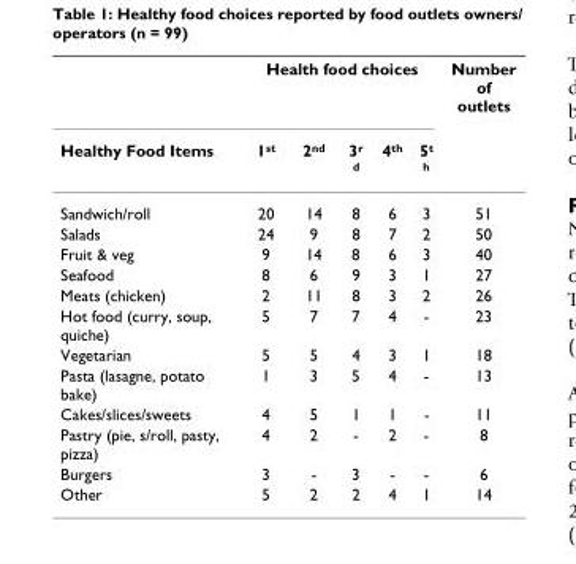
<table><thead><tr><td rowspan="2">Healthy Food Items</td><td colspan="5">Health food choices</td><td rowspan="2">Number of outlets</td></tr><tr><td>1<sup>st</sup></td><td>2<sup>nd</sup></td><td>3<sup>r d</sup></td><td>4<sup>th</sup></td><td>5<sup>t h</sup></td></tr></thead><tbody><tr><td>Sandwich/roll</td><td>20</td><td>14</td><td>8</td><td>6</td><td>3</td><td>51</td></tr><tr><td>Salads</td><td>24</td><td>9</td><td>8</td><td>7</td><td>2</td><td>50</td></tr><tr><td>Fruit &amp; veg</td><td>9</td><td>14</td><td>8</td><td>6</td><td>3</td><td>40</td></tr><tr><td>Seafood</td><td>8</td><td>6</td><td>9</td><td>3</td><td>1</td><td>27</td></tr><tr><td>Meats (chicken)</td><td>2</td><td>11</td><td>8</td><td>3</td><td>2</td><td>26</td></tr><tr><td>Hot food (curry, soup, quiche)</td><td>5</td><td>7</td><td>7</td><td>4</td><td>-</td><td>23</td></tr><tr><td>Vegetarian</td><td>5</td><td>5</td><td>4</td><td>3</td><td>1</td><td>18</td></tr><tr><td>Pasta (lasagne, potato bake)</td><td>1</td><td>3</td><td>5</td><td>4</td><td>-</td><td>13</td></tr><tr><td>Cakes/slices/sweets</td><td>4</td><td>5</td><td>1</td><td>1</td><td>-</td><td>11</td></tr><tr><td>Pastry (pie, s/roll, pasty, pizza)</td><td>4</td><td>2</td><td>-</td><td>2</td><td>-</td><td>8</td></tr><tr><td>Burgers</td><td>3</td><td>-</td><td>3</td><td>-</td><td>-</td><td>6</td></tr><tr><td>Other</td><td>5</td><td>2</td><td>2</td><td>4</td><td>1</td><td>14</td></tr></tbody></table>